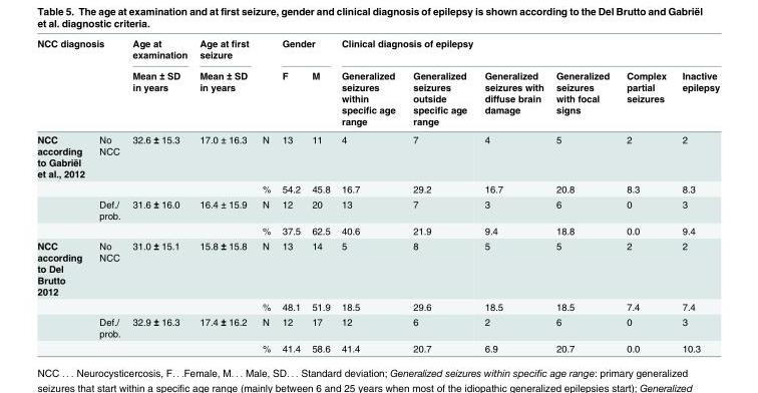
<table><thead><tr><td colspan="2">NCC diagnosis</td><td rowspan="2">Age at examination Mean ± SD in years</td><td rowspan="2">Age at first seizure Mean ± SD in years</td><td rowspan="2"></td><td colspan="2">Gender</td><td colspan="6">Clinical diagnosis of epilepsy</td></tr><tr><td></td><td></td><td>F</td><td>M</td><td>Generalized seizures within specific age range</td><td>Generalized seizures outside specific age range</td><td>Generalized seizures with diffuse brain damage</td><td>Generalized seizures with focal signs</td><td>Complex partial seizures</td><td>Inactive epilepsy</td></tr></thead><tbody><tr><td rowspan="4">NCC according to Gabriël et al., 2012</td><td>No NCC</td><td>32.6 ± 15.3</td><td>17.0 ± 16.3</td><td>N</td><td>13</td><td>11</td><td>4</td><td>7</td><td>4</td><td>5</td><td>2</td><td>2</td></tr><tr><td></td><td></td><td></td><td>%</td><td>54.2</td><td>45.8</td><td>16.7</td><td>29.2</td><td>16.7</td><td>20.8</td><td>8.3</td><td>8.3</td></tr><tr><td>Def./ prob.</td><td>31.6 ± 16.0</td><td>16.4 ± 15.9</td><td>N</td><td>12</td><td>20</td><td>13</td><td>7</td><td>3</td><td>6</td><td>0</td><td>3</td></tr><tr><td></td><td></td><td></td><td>%</td><td>37.5</td><td>62.5</td><td>40.6</td><td>21.9</td><td>9.4</td><td>18.8</td><td>0.0</td><td>9.4</td></tr><tr><td rowspan="4">NCC according to Del Brutto 2012</td><td>No NCC</td><td>31.0 ± 15.1</td><td>15.8 ± 15.8</td><td>N</td><td>13</td><td>14</td><td>5</td><td>8</td><td>5</td><td>5</td><td>2</td><td>2</td></tr><tr><td></td><td></td><td></td><td>%</td><td>48.1</td><td>51.9</td><td>18.5</td><td>29.6</td><td>18.5</td><td>18.5</td><td>7.4</td><td>7.4</td></tr><tr><td>Def./ prob.</td><td>32.9 ± 16.3</td><td>17.4 ± 16.2</td><td>N</td><td>12</td><td>17</td><td>12</td><td>6</td><td>2</td><td>6</td><td>0</td><td>3</td></tr><tr><td></td><td></td><td></td><td>%</td><td>41.4</td><td>58.6</td><td>41.4</td><td>20.7</td><td>6.9</td><td>20.7</td><td>0.0</td><td>10.3</td></tr></tbody></table>